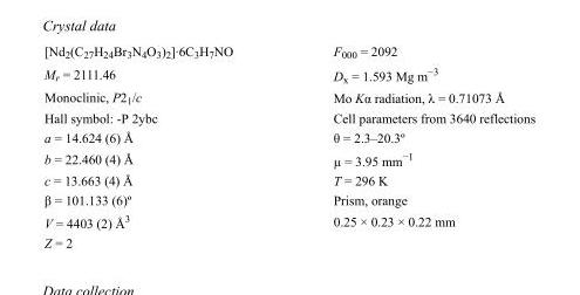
<table><tbody><tr><td>[Nd<sub>2</sub>(C<sub>27</sub>H<sub>24</sub>Br<sub>3</sub>N<sub>4</sub>O<sub>3</sub>)<sub>2</sub>]·6C<sub>3</sub>H<sub>7</sub>NO</td><td>F000 = 2092</td></tr><tr><td>M<sub>r</sub> = 2111.46</td><td>D<sub>x</sub> = 1.593 Mg m<sup>−3</sup></td></tr><tr><td>Monoclinic, P2<sub>1</sub>/c</td><td>Mo Kα radiation, λ = 0.71073 Å</td></tr><tr><td>Hall symbol: -P 2ybc</td><td>Cell parameters from 3640 reflections</td></tr><tr><td>a = 14.624 (6) Å</td><td>θ = 2.3–20.3º</td></tr><tr><td>b = 22.460 (4) Å</td><td>µ = 3.95 mm<sup>−1</sup></td></tr><tr><td>c = 13.663 (4) Å</td><td>T = 296 K</td></tr><tr><td>β = 101.133 (6)º</td><td>Prism, orange</td></tr><tr><td>V = 4403 (2) Å<sup>3</sup></td><td>0.25 × 0.23 × 0.22 mm</td></tr><tr><td>Z = 2</td><td></td></tr></tbody></table>